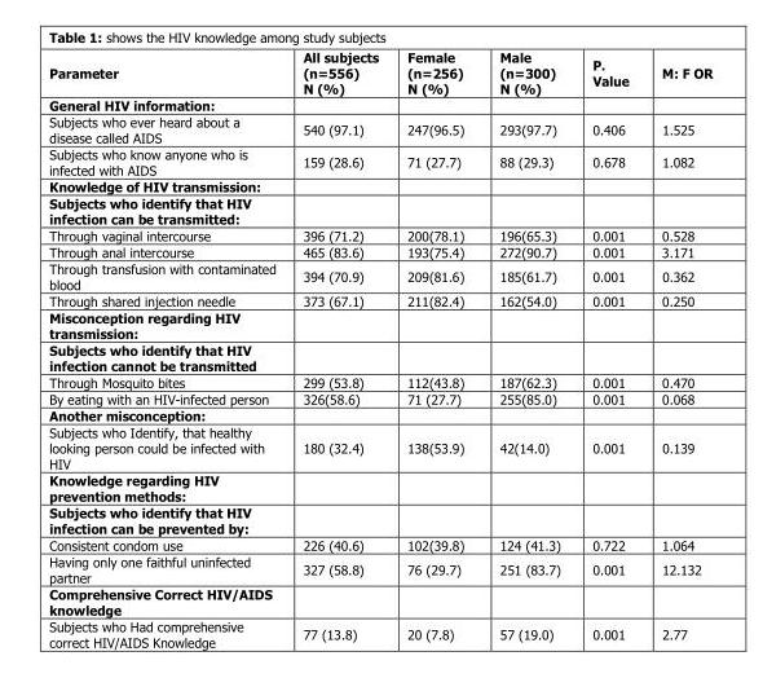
<table><thead><tr><td>Parameter</td><td>All subjects (n=556) N (%)</td><td>Female (n=256) N (%)</td><td>Male (n=300) N (%)</td><td>P. Value</td><td>M: F OR</td></tr></thead><tbody><tr><td colspan="6">General HIV information:</td></tr><tr><td>Subjects who ever heard about a disease called AIDS</td><td>540 (97.1)</td><td>247(96.5)</td><td>293(97.7)</td><td>0.406</td><td>1.525</td></tr><tr><td>Subjects who know anyone who is infected with AIDS</td><td>159 (28.6)</td><td>71 (27.7)</td><td>88 (29.3)</td><td>0.678</td><td>1.082</td></tr><tr><td colspan="6">Knowledge of HIV transmission:</td></tr><tr><td colspan="6">Subjects who identify that HIV infection can be transmitted:</td></tr><tr><td>Through vaginal intercourse</td><td>396 (71.2)</td><td>200(78.1)</td><td>196(65.3)</td><td>0.001</td><td>0.528</td></tr><tr><td>Through anal intercourse</td><td>465 (83.6)</td><td>193(75.4)</td><td>272(90.7)</td><td>0.001</td><td>3.171</td></tr><tr><td>Through transfusion with contaminated blood</td><td>394 (70.9)</td><td>209(81.6)</td><td>185(61.7)</td><td>0.001</td><td>0.362</td></tr><tr><td>Through shared injection needle</td><td>373 (67.1)</td><td>211(82.4)</td><td>162(54.0)</td><td>0.001</td><td>0.250</td></tr><tr><td colspan="6">Misconception regarding HIV transmission:</td></tr><tr><td colspan="6">Subjects who identify that HIV infection cannot be transmitted</td></tr><tr><td>Through Mosquito bites</td><td>299 (53.8)</td><td>112(43.8)</td><td>187(62.3)</td><td>0.001</td><td>0.470</td></tr><tr><td>By eating with an HIV-infected person</td><td>326(58.6)</td><td>71 (27.7)</td><td>255(85.0)</td><td>0.001</td><td>0.068</td></tr><tr><td colspan="6">Another misconception:</td></tr><tr><td>Subjects who Identify, that healthy looking person could be infected with HIV</td><td>180 (32.4)</td><td>138(53.9)</td><td>42(14.0)</td><td>0.001</td><td>0.139</td></tr><tr><td colspan="6">Knowledge regarding HIV prevention methods:</td></tr><tr><td colspan="6">Subjects who identify that HIV infection can be prevented by:</td></tr><tr><td>Consistent condom use</td><td>226 (40.6)</td><td>102(39.8)</td><td>124 (41.3)</td><td>0.722</td><td>1.064</td></tr><tr><td>Having only one faithful uninfected partner</td><td>327 (58.8)</td><td>76 (29.7)</td><td>251 (83.7)</td><td>0.001</td><td>12.132</td></tr><tr><td colspan="6">Comprehensive Correct HIV/AIDS knowledge</td></tr><tr><td>Subjects who Had comprehensive correct HIV/AIDS Knowledge</td><td>77 (13.8)</td><td>20 (7.8)</td><td>57 (19.0)</td><td>0.001</td><td>2.77</td></tr></tbody></table>